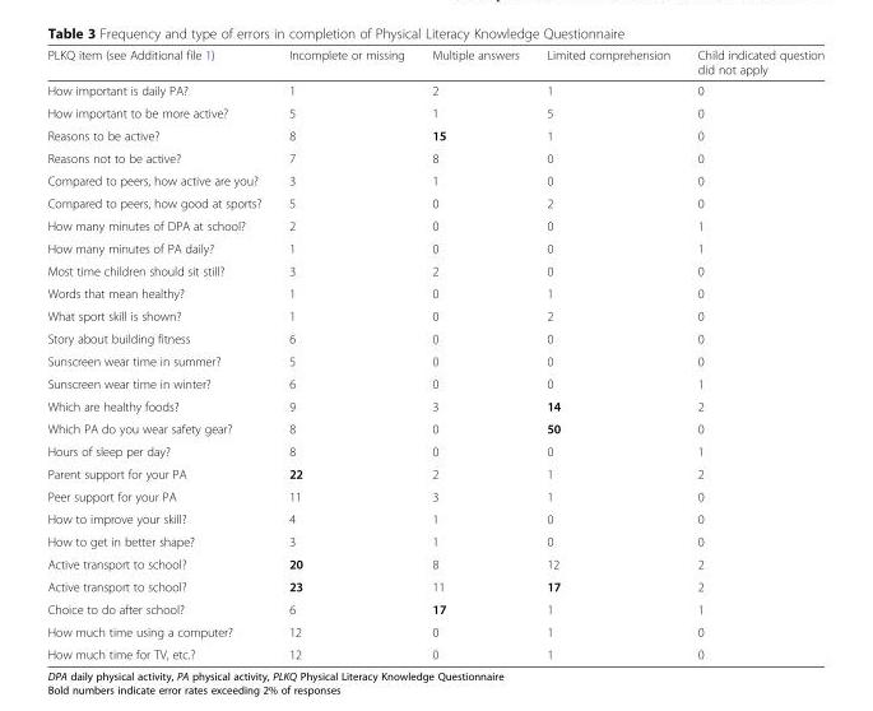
<table><thead><tr><td>PLKQ item (see Additional file 1)</td><td>Incomplete or missing</td><td>Multiple answers</td><td>Limited comprehension</td><td>Child indicated question did not apply</td></tr></thead><tbody><tr><td>How important is daily PA?</td><td>1</td><td>2</td><td>1</td><td>0</td></tr><tr><td>How important to be more active?</td><td>5</td><td>1</td><td>5</td><td>0</td></tr><tr><td>Reasons to be active?</td><td>8</td><td>15</td><td>1</td><td>0</td></tr><tr><td>Reasons not to be active?</td><td>7</td><td>8</td><td>0</td><td>0</td></tr><tr><td>Compared to peers, how active are you?</td><td>3</td><td>1</td><td>0</td><td>0</td></tr><tr><td>Compared to peers, how good at sports?</td><td>5</td><td>0</td><td>2</td><td>0</td></tr><tr><td>How many minutes of DPA at school?</td><td>2</td><td>0</td><td>0</td><td>1</td></tr><tr><td>How many minutes of PA daily?</td><td>1</td><td>0</td><td>0</td><td>1</td></tr><tr><td>Most time children should sit still?</td><td>3</td><td>2</td><td>0</td><td>0</td></tr><tr><td>Words that mean healthy?</td><td>1</td><td>0</td><td>1</td><td>0</td></tr><tr><td>What sport skill is shown?</td><td>1</td><td>0</td><td>2</td><td>0</td></tr><tr><td>Story about building fitness</td><td>6</td><td>0</td><td>0</td><td>0</td></tr><tr><td>Sunscreen wear time in summer?</td><td>5</td><td>0</td><td>0</td><td>0</td></tr><tr><td>Sunscreen wear time in winter?</td><td>6</td><td>0</td><td>0</td><td>1</td></tr><tr><td>Which are healthy foods?</td><td>9</td><td>3</td><td>14</td><td>2</td></tr><tr><td>Which PA do you wear safety gear?</td><td>8</td><td>0</td><td>50</td><td>0</td></tr><tr><td>Hours of sleep per day?</td><td>8</td><td>0</td><td>0</td><td>1</td></tr><tr><td>Parent support for your PA</td><td>22</td><td>2</td><td>1</td><td>2</td></tr><tr><td>Peer support for your PA</td><td>11</td><td>3</td><td>1</td><td>0</td></tr><tr><td>How to improve your skill?</td><td>4</td><td>1</td><td>0</td><td>0</td></tr><tr><td>How to get in better shape?</td><td>3</td><td>1</td><td>0</td><td>0</td></tr><tr><td>Active transport to school?</td><td>20</td><td>8</td><td>12</td><td>2</td></tr><tr><td>Active transport to school?</td><td>23</td><td>11</td><td>17</td><td>2</td></tr><tr><td>Choice to do after school?</td><td>6</td><td>17</td><td>1</td><td>1</td></tr><tr><td>How much time using a computer?</td><td>12</td><td>0</td><td>1</td><td>0</td></tr><tr><td>How much time for TV, etc.?</td><td>12</td><td>0</td><td>1</td><td>0</td></tr></tbody></table>